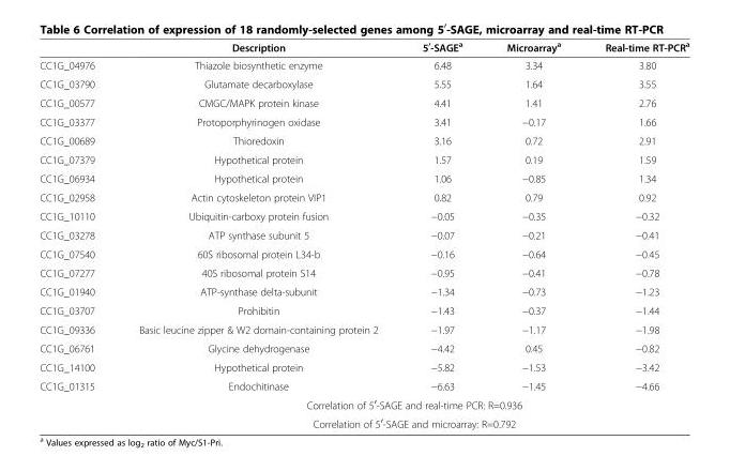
<table><thead><tr><td></td><td>Description</td><td>5<sup>′</sup>-SAGE<sup>a</sup></td><td>Microarray<sup>a</sup></td><td>Real-time RT-PCR<sup>a</sup></td></tr></thead><tbody><tr><td>CC1G_04976</td><td>Thiazole biosynthetic enzyme</td><td>6.48</td><td>3.34</td><td>3.80</td></tr><tr><td>CC1G_03790</td><td>Glutamate decarboxylase</td><td>5.55</td><td>1.64</td><td>3.55</td></tr><tr><td>CC1G_00577</td><td>CMGC/MAPK protein kinase</td><td>4.41</td><td>1.41</td><td>2.76</td></tr><tr><td>CC1G_03377</td><td>Protoporphyrinogen oxidase</td><td>3.41</td><td>−0.17</td><td>1.66</td></tr><tr><td>CC1G_00689</td><td>Thioredoxin</td><td>3.16</td><td>0.72</td><td>2.91</td></tr><tr><td>CC1G_07379</td><td>Hypothetical protein</td><td>1.57</td><td>0.19</td><td>1.59</td></tr><tr><td>CC1G_06934</td><td>Hypothetical protein</td><td>1.06</td><td>−0.85</td><td>1.34</td></tr><tr><td>CC1G_02958</td><td>Actin cytoskeleton protein VIP1</td><td>0.82</td><td>0.79</td><td>0.92</td></tr><tr><td>CC1G_10110</td><td>Ubiquitin-carboxy protein fusion</td><td>−0.05</td><td>−0.35</td><td>−0.32</td></tr><tr><td>CC1G_03278</td><td>ATP synthase subunit 5</td><td>−0.07</td><td>−0.21</td><td>−0.41</td></tr><tr><td>CC1G_07540</td><td>60S ribosomal protein L34-b</td><td>−0.16</td><td>−0.64</td><td>−0.45</td></tr><tr><td>CC1G_07277</td><td>40S ribosomal protein S14</td><td>−0.95</td><td>−0.41</td><td>−0.78</td></tr><tr><td>CC1G_01940</td><td>ATP-synthase delta-subunit</td><td>−1.34</td><td>−0.73</td><td>−1.23</td></tr><tr><td>CC1G_03707</td><td>Prohibitin</td><td>−1.43</td><td>−0.37</td><td>−1.44</td></tr><tr><td>CC1G_09336</td><td>Basic leucine zipper &amp; W2 domain-containing protein 2</td><td>−1.97</td><td>−1.17</td><td>−1.98</td></tr><tr><td>CC1G_06761</td><td>Glycine dehydrogenase</td><td>−4.42</td><td>0.45</td><td>−0.82</td></tr><tr><td>CC1G_14100</td><td>Hypothetical protein</td><td>−5.82</td><td>−1.53</td><td>−3.42</td></tr><tr><td rowspan="3">CC1G_01315</td><td>Endochitinase</td><td>−6.63</td><td>−1.45</td><td>−4.66</td></tr><tr><td colspan="4">Correlation of 5<sup>′</sup>-SAGE and real-time PCR: R=0.936</td></tr><tr><td colspan="4">Correlation of 5<sup>′</sup>-SAGE and microarray: R=0.792</td></tr></tbody></table>